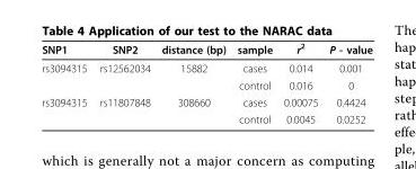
<table><thead><tr><td>SNP1</td><td>SNP2</td><td>distance (bp)</td><td>sample</td><td>r<sup>2</sup></td><td>P - value</td></tr></thead><tbody><tr><td rowspan="2">rs3094315</td><td>rs12562034</td><td>15882</td><td>cases</td><td>0.014</td><td>0.001</td></tr><tr><td></td><td></td><td>control</td><td>0.016</td><td>0</td></tr><tr><td rowspan="2">rs3094315</td><td>rs11807848</td><td>308660</td><td>cases</td><td>0.00075</td><td>0.4424</td></tr><tr><td></td><td></td><td>control</td><td>0.0045</td><td>0.0252</td></tr></tbody></table>